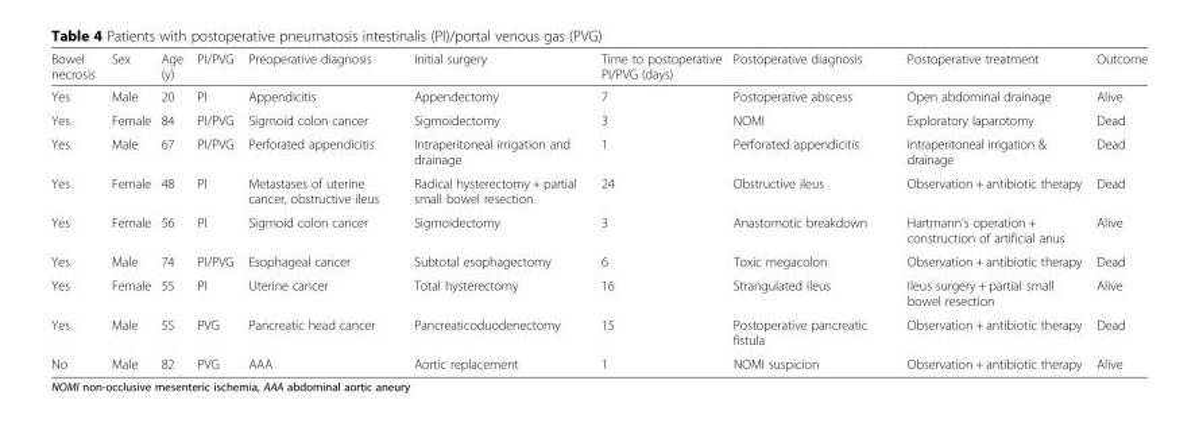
<table><thead><tr><td>Bowel necrosis</td><td>Sex</td><td>Age (y)</td><td>PI/PVG</td><td>Preoperative diagnosis</td><td>Initial surgery</td><td>Time to postoperative PI/PVG (days)</td><td>Postoperative diagnosis</td><td>Postoperative treatment</td><td>Outcome</td></tr></thead><tbody><tr><td>Yes</td><td>Male</td><td>20</td><td>PI</td><td>Appendicitis</td><td>Appendectomy</td><td>7</td><td>Postoperative abscess</td><td>Open abdominal drainage</td><td>Alive</td></tr><tr><td>Yes</td><td>Female</td><td>84</td><td>PI/PVG</td><td>Sigmoid colon cancer</td><td>Sigmoidectomy</td><td>3</td><td>NOMI</td><td>Exploratory laparotomy</td><td>Dead</td></tr><tr><td>Yes</td><td>Male</td><td>67</td><td>PI/PVG</td><td>Perforated appendicitis</td><td>Intraperitoneal irrigation and drainage</td><td>1</td><td>Perforated appendicitis</td><td>Intraperitoneal irrigation &amp; drainage</td><td>Dead</td></tr><tr><td>Yes</td><td>Female</td><td>48</td><td>PI</td><td>Metastases of uterine cancer, obstructive ileus</td><td>Radical hysterectomy + partial small bowel resection</td><td>24</td><td>Obstructive ileus</td><td>Observation + antibiotic therapy</td><td>Dead</td></tr><tr><td>Yes</td><td>Female</td><td>56</td><td>PI</td><td>Sigmoid colon cancer</td><td>Sigmoidectomy</td><td>3</td><td>Anastomotic breakdown</td><td>Hartmann’s operation + construction of artificial anus</td><td>Alive</td></tr><tr><td>Yes</td><td>Male</td><td>74</td><td>PI/PVG</td><td>Esophageal cancer</td><td>Subtotal esophagectomy</td><td>6</td><td>Toxic megacolon</td><td>Observation + antibiotic therapy</td><td>Dead</td></tr><tr><td>Yes</td><td>Female</td><td>55</td><td>PI</td><td>Uterine cancer</td><td>Total hysterectomy</td><td>16</td><td>Strangulated ileus</td><td>Ileus surgery + partial small bowel resection</td><td>Alive</td></tr><tr><td>Yes</td><td>Male</td><td>55</td><td>PVG</td><td>Pancreatic head cancer</td><td>Pancreaticoduodenectomy</td><td>15</td><td>Postoperative pancreatic fistula</td><td>Observation + antibiotic therapy</td><td>Dead</td></tr><tr><td>No</td><td>Male</td><td>82</td><td>PVG</td><td>AAA</td><td>Aortic replacement</td><td>1</td><td>NOMI suspicion</td><td>Observation + antibiotic therapy</td><td>Alive</td></tr></tbody></table>